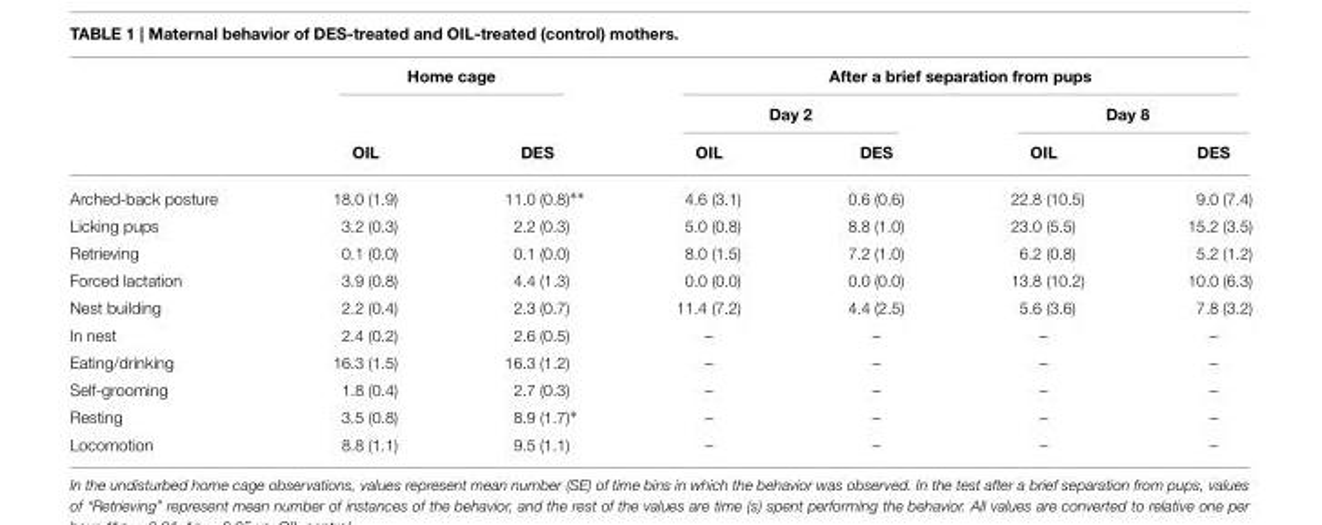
<table><thead><tr><td rowspan="3"></td><td colspan="2">Home cage</td><td colspan="4">After a brief separation from pups</td></tr><tr><td rowspan="2">OIL</td><td rowspan="2">DES</td><td colspan="2">Day 2</td><td colspan="2">Day 8</td></tr><tr><td>OIL</td><td>DES</td><td>OIL</td><td>DES</td></tr></thead><tbody><tr><td>Arched-back posture</td><td>18.0 (1.9)</td><td>11.0 (0.8)∗∗</td><td>4.6 (3.1)</td><td>0.6 (0.6)</td><td>22.8 (10.5)</td><td>9.0 (7.4)</td></tr><tr><td>Licking pups</td><td>3.2 (0.3)</td><td>2.2 (0.3)</td><td>5.0 (0.8)</td><td>8.8 (1.0)</td><td>23.0 (5.5)</td><td>15.2 (3.5)</td></tr><tr><td>Retrieving</td><td>0.1 (0.0)</td><td>0.1 (0.0)</td><td>8.0 (1.5)</td><td>7.2 (1.0)</td><td>6.2 (0.8)</td><td>5.2 (1.2)</td></tr><tr><td>Forced lactation</td><td>3.9 (0.8)</td><td>4.4 (1.3)</td><td>0.0 (0.0)</td><td>0.0 (0.0)</td><td>13.8 (10.2)</td><td>10.0 (6.3)</td></tr><tr><td>Nest building</td><td>2.2 (0.4)</td><td>2.3 (0.7)</td><td>11.4 (7.2)</td><td>4.4 (2.5)</td><td>5.6 (3.6)</td><td>7.8 (3.2)</td></tr><tr><td>In nest</td><td>2.4 (0.2)</td><td>2.6 (0.5)</td><td>–</td><td>–</td><td>–</td><td>–</td></tr><tr><td>Eating/drinking</td><td>16.3 (1.5)</td><td>16.3 (1.2)</td><td>–</td><td>–</td><td>–</td><td>–</td></tr><tr><td>Self-grooming</td><td>1.8 (0.4)</td><td>2.7 (0.3)</td><td>–</td><td>–</td><td>–</td><td>–</td></tr><tr><td>Resting</td><td>3.5 (0.8)</td><td>8.9 (1.7)∗</td><td>–</td><td>–</td><td>–</td><td>–</td></tr><tr><td>Locomotion</td><td>8.8 (1.1)</td><td>9.5 (1.1)</td><td>–</td><td>–</td><td>–</td><td>–</td></tr></tbody></table>